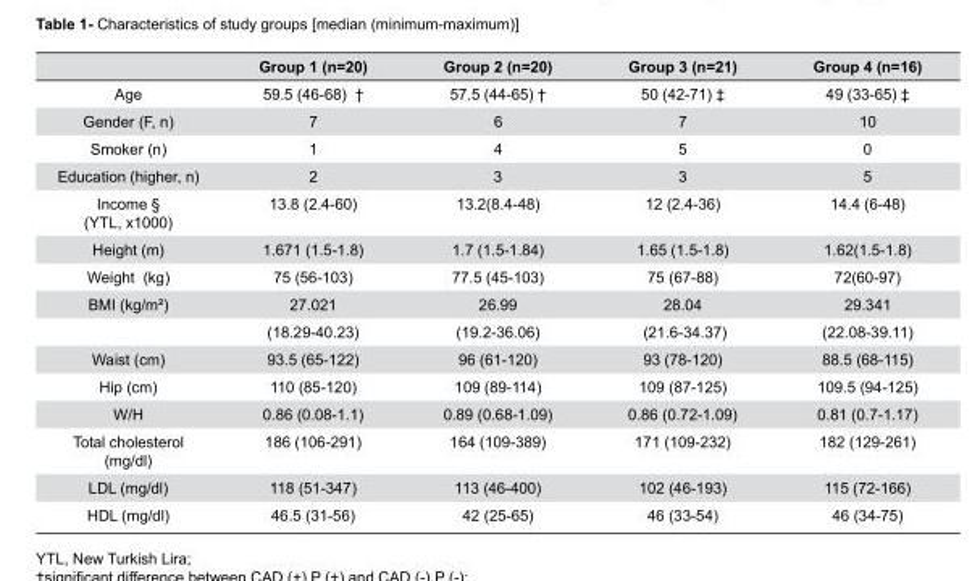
<table><thead><tr><td></td><td>Group 1 (n=20)</td><td>Group 2 (n=20)</td><td>Group 3 (n=21)</td><td>Group 4 (n=16)</td></tr></thead><tbody><tr><td>Age</td><td>59.5 (46-68) †</td><td>57.5 (44-65) †</td><td>50 (42-71) ‡</td><td>49 (33-65) ‡</td></tr><tr><td>Gender (F, n)</td><td>7</td><td>6</td><td>7</td><td>10</td></tr><tr><td>Smoker (n)</td><td>1</td><td>4</td><td>5</td><td>0</td></tr><tr><td>Education (higher, n)</td><td>2</td><td>3</td><td>3</td><td>5</td></tr><tr><td>Income § (YTL, x1000)</td><td>13.8 (2.4-60)</td><td>13.2(8.4-48)</td><td>12 (2.4-36)</td><td>14.4 (6-48)</td></tr><tr><td>Height (m)</td><td>1.671 (1.5-1.8)</td><td>1.7 (1.5-1.84)</td><td>1.65 (1.5-1.8)</td><td>1.62(1.5-1.8)</td></tr><tr><td>Weight (kg)</td><td>75 (56-103)</td><td>77.5 (45-103)</td><td>75 (67-88)</td><td>72(60-97)</td></tr><tr><td rowspan="2">BMI (kg/m²)</td><td>27.021</td><td>26.99</td><td>28.04</td><td>29.341</td></tr><tr><td>(18.29-40.23)</td><td>(19.2-36.06)</td><td>(21.6-34.37)</td><td>(22.08-39.11)</td></tr><tr><td>Waist (cm)</td><td>93.5 (65-122)</td><td>96 (61-120)</td><td>93 (78-120)</td><td>88.5 (68-115)</td></tr><tr><td>Hip (cm)</td><td>110 (85-120)</td><td>109 (89-114)</td><td>109 (87-125)</td><td>109.5 (94-125)</td></tr><tr><td>W/H</td><td>0.86 (0.08-1.1)</td><td>0.89 (0.68-1.09)</td><td>0.86 (0.72-1.09)</td><td>0.81 (0.7-1.17)</td></tr><tr><td>Total cholesterol (mg/dl)</td><td>186 (106-291)</td><td>164 (109-389)</td><td>171 (109-232)</td><td>182 (129-261)</td></tr><tr><td>LDL (mg/dl)</td><td>118 (51-347)</td><td>113 (46-400)</td><td>102 (46-193)</td><td>115 (72-166)</td></tr><tr><td>HDL (mg/dl)</td><td>46.5 (31-56)</td><td>42 (25-65)</td><td>46 (33-54)</td><td>46 (34-75)</td></tr></tbody></table>